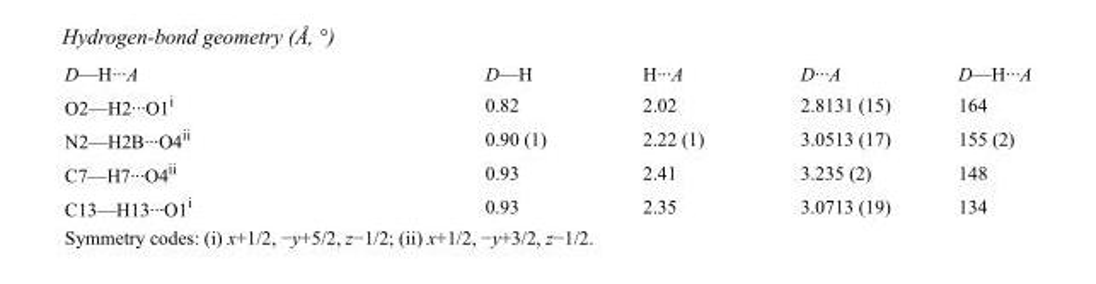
<table><tbody><tr><td>D—H···A</td><td>D—H</td><td>H···A</td><td>D···A</td><td>D—H···A</td></tr><tr><td>O2—H2···O1<sup>i</sup></td><td>0.82</td><td>2.02</td><td>2.8131 (15)</td><td>164</td></tr><tr><td>N2—H2B···O4<sup>ii</sup></td><td>0.90 (1)</td><td>2.22 (1)</td><td>3.0513 (17)</td><td>155 (2)</td></tr><tr><td>C7—H7···O4<sup>ii</sup></td><td>0.93</td><td>2.41</td><td>3.235 (2)</td><td>148</td></tr><tr><td>C13—H13···O1<sup>i</sup></td><td>0.93</td><td>2.35</td><td>3.0713 (19)</td><td>134</td></tr></tbody></table>